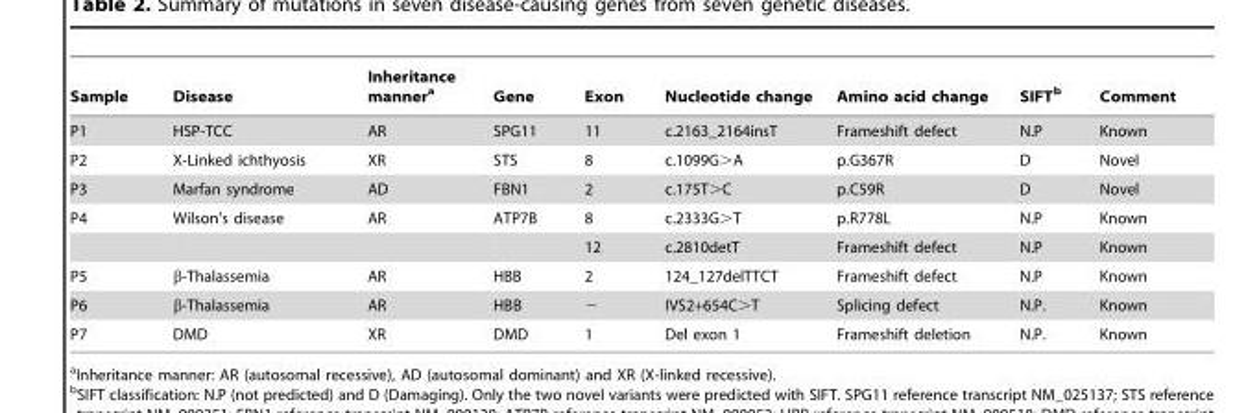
<table><thead><tr><td>Sample</td><td>Disease</td><td>Inheritance manner<sup>a</sup></td><td>Gene</td><td>Exon</td><td>Nucleotide change</td><td>Amino acid change</td><td>SIFT<sup>b</sup></td><td>Comment</td></tr></thead><tbody><tr><td>P1</td><td>HSP-TCC</td><td>AR</td><td>SPG11</td><td>11</td><td>c.2163_2164insT</td><td>Frameshift defect</td><td>N.P</td><td>Known</td></tr><tr><td>P2</td><td>X-Linked ichthyosis</td><td>XR</td><td>STS</td><td>8</td><td>c.1099G&gt;A</td><td>p.G367R</td><td>D</td><td>Novel</td></tr><tr><td>P3</td><td>Marfan syndrome</td><td>AD</td><td>FBN1</td><td>2</td><td>c.175T&gt;C</td><td>p.C59R</td><td>D</td><td>Novel</td></tr><tr><td rowspan="2">P4</td><td>Wilson’s disease</td><td>AR</td><td>ATP7B</td><td>8</td><td>c.2333G&gt;T</td><td>p.R778L</td><td>N.P</td><td>Known</td></tr><tr><td></td><td></td><td></td><td>12</td><td>c.2810detT</td><td>Frameshift defect</td><td>N.P</td><td>Known</td></tr><tr><td>P5</td><td>β-Thalassemia</td><td>AR</td><td>HBB</td><td>2</td><td>124_127delTTCT</td><td>Frameshift defect</td><td>N.P</td><td>Known</td></tr><tr><td>P6</td><td>β-Thalassemia</td><td>AR</td><td>HBB</td><td>−</td><td>IVS2+654C&gt;T</td><td>Splicing defect</td><td>N.P.</td><td>Known</td></tr><tr><td>P7</td><td>DMD</td><td>XR</td><td>DMD</td><td>1</td><td>Del exon 1</td><td>Frameshift deletion</td><td>N.P.</td><td>Known</td></tr></tbody></table>